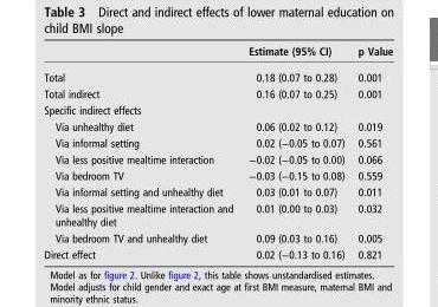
<table><thead><tr><td></td><td>Estimate (95% CI)</td><td>p Value</td></tr></thead><tbody><tr><td>Total</td><td>0.18 (0.07 to 0.28)</td><td>0.001</td></tr><tr><td>Total indirect</td><td>0.16 (0.07 to 0.25)</td><td>0.001</td></tr><tr><td colspan="3">Specific indirect effects</td></tr><tr><td>Via unhealthy diet</td><td>0.06 (0.02 to 0.12)</td><td>0.019</td></tr><tr><td>Via informal setting</td><td>0.02 (−0.05 to 0.07)</td><td>0.561</td></tr><tr><td>Via less positive mealtime interaction</td><td>−0.02 (−0.05 to 0.00)</td><td>0.066</td></tr><tr><td>Via bedroom TV</td><td>−0.03 (−0.15 to 0.08)</td><td>0.559</td></tr><tr><td>Via informal setting and unhealthy diet</td><td>0.03 (0.01 to 0.07)</td><td>0.011</td></tr><tr><td>Via less positive mealtime interaction and unhealthy diet</td><td>0.01 (0.00 to 0.03)</td><td>0.032</td></tr><tr><td>Via bedroom TV and unhealthy diet</td><td>0.09 (0.03 to 0.16)</td><td>0.005</td></tr><tr><td>Direct effect</td><td>0.02 (−0.13 to 0.16)</td><td>0.821</td></tr></tbody></table>